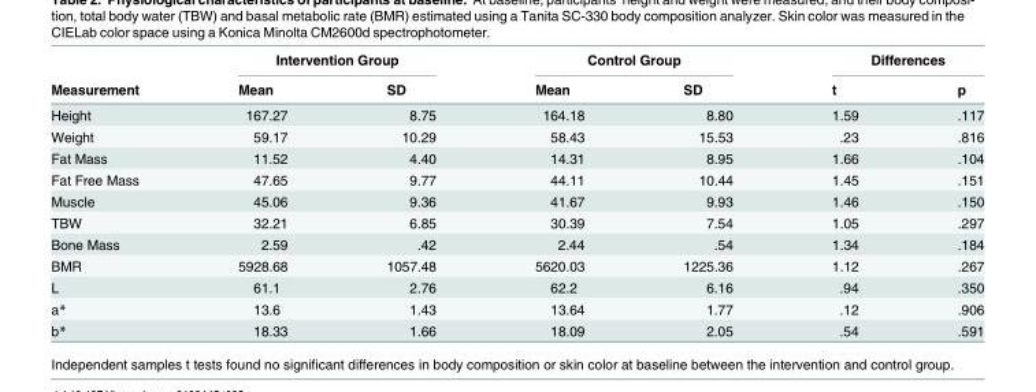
<table><thead><tr><td rowspan="2">Measurement</td><td colspan="2">Intervention Group</td><td colspan="2">Control Group</td><td colspan="2">Differences</td></tr><tr><td>Mean</td><td>SD</td><td>Mean</td><td>SD</td><td>t</td><td>p</td></tr></thead><tbody><tr><td>Height</td><td>167.27</td><td>8.75</td><td>164.18</td><td>8.80</td><td>1.59</td><td>.117</td></tr><tr><td>Weight</td><td>59.17</td><td>10.29</td><td>58.43</td><td>15.53</td><td>.23</td><td>.816</td></tr><tr><td>Fat Mass</td><td>11.52</td><td>4.40</td><td>14.31</td><td>8.95</td><td>1.66</td><td>.104</td></tr><tr><td>Fat Free Mass</td><td>47.65</td><td>9.77</td><td>44.11</td><td>10.44</td><td>1.45</td><td>.151</td></tr><tr><td>Muscle</td><td>45.06</td><td>9.36</td><td>41.67</td><td>9.93</td><td>1.46</td><td>.150</td></tr><tr><td>TBW</td><td>32.21</td><td>6.85</td><td>30.39</td><td>7.54</td><td>1.05</td><td>.297</td></tr><tr><td>Bone Mass</td><td>2.59</td><td>.42</td><td>2.44</td><td>.54</td><td>1.34</td><td>.184</td></tr><tr><td>BMR</td><td>5928.68</td><td>1057.48</td><td>5620.03</td><td>1225.36</td><td>1.12</td><td>.267</td></tr><tr><td>L</td><td>61.1</td><td>2.76</td><td>62.2</td><td>6.16</td><td>.94</td><td>.350</td></tr><tr><td>a*</td><td>13.6</td><td>1.43</td><td>13.64</td><td>1.77</td><td>.12</td><td>.906</td></tr><tr><td>b*</td><td>18.33</td><td>1.66</td><td>18.09</td><td>2.05</td><td>.54</td><td>.591</td></tr></tbody></table>